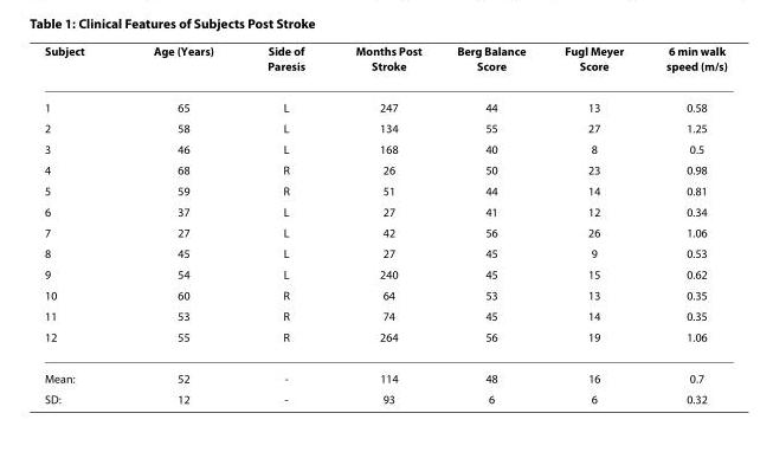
<table><thead><tr><td>Subject</td><td>Age (Years)</td><td>Side of Paresis</td><td>Months Post Stroke</td><td>Berg Balance Score</td><td>Fugl Meyer Score</td><td>6 min walk speed (m/s)</td></tr></thead><tbody><tr><td>1</td><td>65</td><td>L</td><td>247</td><td>44</td><td>13</td><td>0.58</td></tr><tr><td>2</td><td>58</td><td>L</td><td>134</td><td>55</td><td>27</td><td>1.25</td></tr><tr><td>3</td><td>46</td><td>L</td><td>168</td><td>40</td><td>8</td><td>0.5</td></tr><tr><td>4</td><td>68</td><td>R</td><td>26</td><td>50</td><td>23</td><td>0.98</td></tr><tr><td>5</td><td>59</td><td>R</td><td>51</td><td>44</td><td>14</td><td>0.81</td></tr><tr><td>6</td><td>37</td><td>L</td><td>27</td><td>41</td><td>12</td><td>0.34</td></tr><tr><td>7</td><td>27</td><td>L</td><td>42</td><td>56</td><td>26</td><td>1.06</td></tr><tr><td>8</td><td>45</td><td>L</td><td>27</td><td>45</td><td>9</td><td>0.53</td></tr><tr><td>9</td><td>54</td><td>L</td><td>240</td><td>45</td><td>15</td><td>0.62</td></tr><tr><td>10</td><td>60</td><td>R</td><td>64</td><td>53</td><td>13</td><td>0.35</td></tr><tr><td>11</td><td>53</td><td>R</td><td>74</td><td>45</td><td>14</td><td>0.35</td></tr><tr><td>12</td><td>55</td><td>R</td><td>264</td><td>56</td><td>19</td><td>1.06</td></tr><tr><td>Mean:</td><td>52</td><td>-</td><td>114</td><td>48</td><td>16</td><td>0.7</td></tr><tr><td>SD:</td><td>12</td><td>-</td><td>93</td><td>6</td><td>6</td><td>0.32</td></tr></tbody></table>